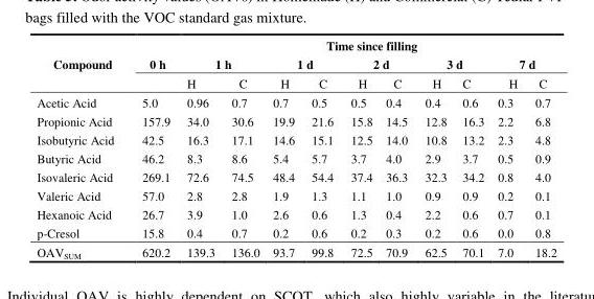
<table><thead><tr><td rowspan="3">Compound</td><td colspan="11">Time since filling</td></tr><tr><td rowspan="2">0 h</td><td colspan="2">1 h</td><td colspan="2">1 d</td><td colspan="2">2 d</td><td colspan="2">3 d</td><td colspan="2">7 d</td></tr><tr><td>H</td><td>C</td><td>H</td><td>C</td><td>H</td><td>C</td><td>H</td><td>C</td><td>H</td><td>C</td></tr></thead><tbody><tr><td>Acetic Acid</td><td>5.0</td><td>0.96</td><td>0.7</td><td>0.7</td><td>0.5</td><td>0.5</td><td>0.4</td><td>0.4</td><td>0.6</td><td>0.3</td><td>0.7</td></tr><tr><td>Propionic Acid</td><td>157.9</td><td>34.0</td><td>30.6</td><td>19.9</td><td>21.6</td><td>15.8</td><td>14.5</td><td>12.8</td><td>16.3</td><td>2.2</td><td>6.8</td></tr><tr><td>Isobutyric Acid</td><td>42.5</td><td>16.3</td><td>17.1</td><td>14.6</td><td>15.1</td><td>12.5</td><td>14.0</td><td>10.8</td><td>13.2</td><td>2.3</td><td>4.8</td></tr><tr><td>Butyric Acid</td><td>46.2</td><td>8.3</td><td>8.6</td><td>5.4</td><td>5.7</td><td>3.7</td><td>4.0</td><td>2.9</td><td>3.7</td><td>0.5</td><td>0.9</td></tr><tr><td>Isovaleric Acid</td><td>269.1</td><td>72.6</td><td>74.5</td><td>48.4</td><td>54.4</td><td>37.4</td><td>36.3</td><td>32.3</td><td>34.2</td><td>0.8</td><td>4.0</td></tr><tr><td>Valeric Acid</td><td>57.0</td><td>2.8</td><td>2.8</td><td>1.9</td><td>1.3</td><td>1.1</td><td>1.0</td><td>0.9</td><td>0.9</td><td>0.2</td><td>0.1</td></tr><tr><td>Hexanoic Acid</td><td>26.7</td><td>3.9</td><td>1.0</td><td>2.6</td><td>0.6</td><td>1.3</td><td>0.4</td><td>2.2</td><td>0.6</td><td>0.7</td><td>0.1</td></tr><tr><td>p-Cresol</td><td>15.8</td><td>0.4</td><td>0.7</td><td>0.2</td><td>0.6</td><td>0.2</td><td>0.3</td><td>0.2</td><td>0.6</td><td>0.0</td><td>0.8</td></tr><tr><td>OAV<sub>SUM</sub></td><td>620.2</td><td>139.3</td><td>136.0</td><td>93.7</td><td>99.8</td><td>72.5</td><td>70.9</td><td>62.5</td><td>70.1</td><td>7.0</td><td>18.2</td></tr></tbody></table>